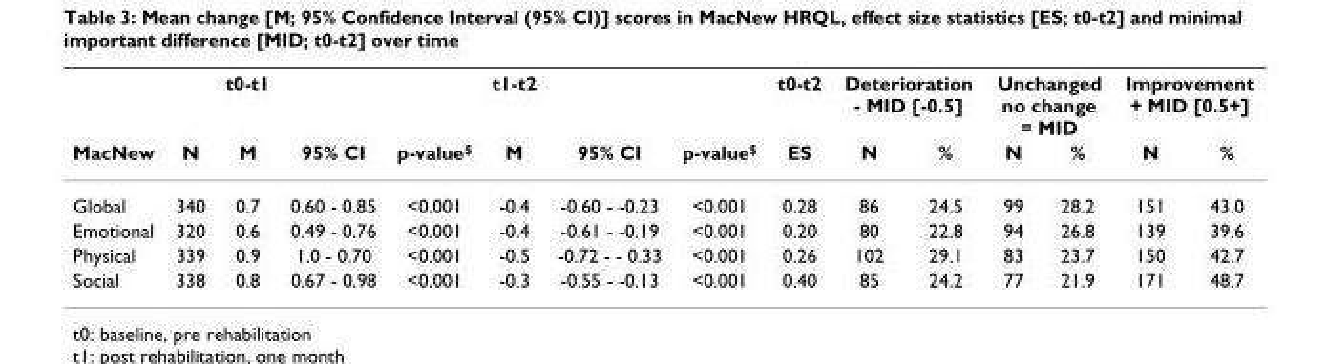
<table><thead><tr><td rowspan="2">MacNew</td><td rowspan="2">N</td><td rowspan="2">t0-t1 M</td><td rowspan="2">95% CI</td><td rowspan="2">p-value<sup>$</sup></td><td rowspan="2">t1-t2 M</td><td rowspan="2">95% CI</td><td rowspan="2">p-value<sup>$</sup></td><td rowspan="2">t0-t2 ES</td><td colspan="2">Deterioration - MID [-0.5]</td><td colspan="2">Unchanged no change = MID</td><td colspan="2">Improvement + MID [0.5+]</td></tr><tr><td>N</td><td>%</td><td>N</td><td>%</td><td>N</td><td>%</td></tr></thead><tbody><tr><td>Global</td><td>340</td><td>0.7</td><td>0.60 - 0.85</td><td>&lt;0.001</td><td>-0.4</td><td>-0.60 - -0.23</td><td>&lt;0.001</td><td>0.28</td><td>86</td><td>24.5</td><td>99</td><td>28.2</td><td>151</td><td>43.0</td></tr><tr><td>Emotional</td><td>320</td><td>0.6</td><td>0.49 - 0.76</td><td>&lt;0.001</td><td>-0.4</td><td>-0.61 - -0.19</td><td>&lt;0.001</td><td>0.20</td><td>80</td><td>22.8</td><td>94</td><td>26.8</td><td>139</td><td>39.6</td></tr><tr><td>Physical</td><td>339</td><td>0.9</td><td>1.0 - 0.70</td><td>&lt;0.001</td><td>-0.5</td><td>-0.72 - - 0.33</td><td>&lt;0.001</td><td>0.26</td><td>102</td><td>29.1</td><td>83</td><td>23.7</td><td>150</td><td>42.7</td></tr><tr><td>Social</td><td>338</td><td>0.8</td><td>0.67 - 0.98</td><td>&lt;0.001</td><td>-0.3</td><td>-0.55 - -0.13</td><td>&lt;0.001</td><td>0.40</td><td>85</td><td>24.2</td><td>77</td><td>21.9</td><td>171</td><td>48.7</td></tr></tbody></table>